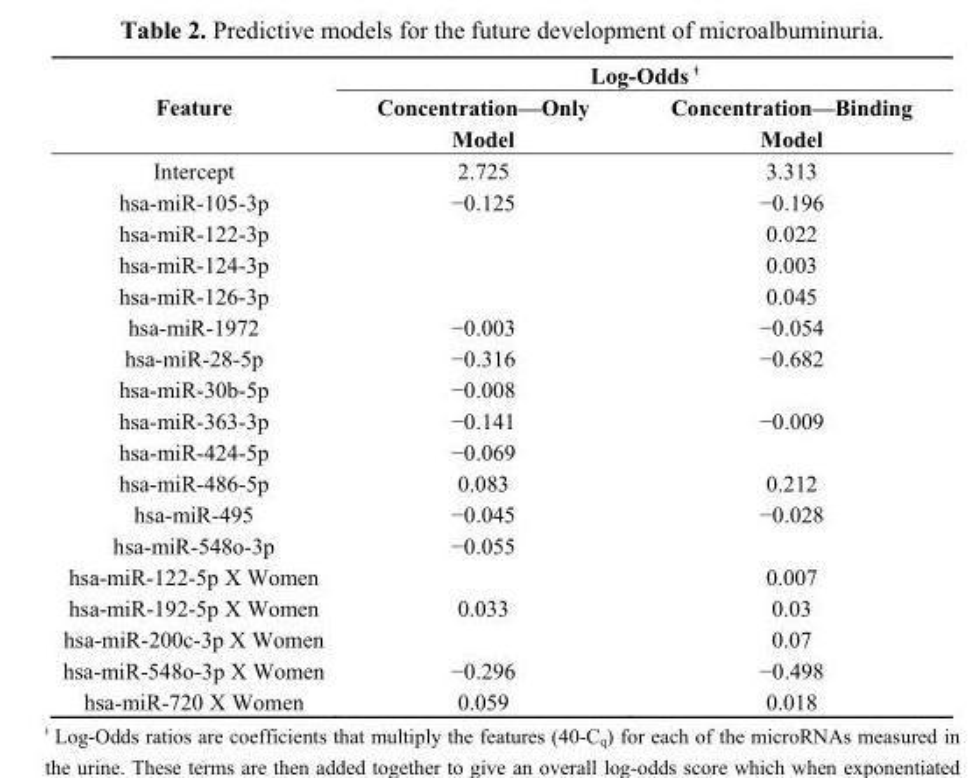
<table><thead><tr><td rowspan="2">Feature</td><td colspan="2">Log-Odds <sup>ǂ</sup></td></tr><tr><td>Concentration—Only Model</td><td>Concentration—Binding Model</td></tr></thead><tbody><tr><td>Intercept</td><td>2.725</td><td>3.313</td></tr><tr><td>hsa-miR-105-3p</td><td>−0.125</td><td>−0.196</td></tr><tr><td>hsa-miR-122-3p</td><td></td><td>0.022</td></tr><tr><td>hsa-miR-124-3p</td><td></td><td>0.003</td></tr><tr><td>hsa-miR-126-3p</td><td></td><td>0.045</td></tr><tr><td>hsa-miR-1972</td><td>−0.003</td><td>−0.054</td></tr><tr><td>hsa-miR-28-5p</td><td>−0.316</td><td>−0.682</td></tr><tr><td>hsa-miR-30b-5p</td><td>−0.008</td><td></td></tr><tr><td>hsa-miR-363-3p</td><td>−0.141</td><td>−0.009</td></tr><tr><td>hsa-miR-424-5p</td><td>−0.069</td><td></td></tr><tr><td>hsa-miR-486-5p</td><td>0.083</td><td>0.212</td></tr><tr><td>hsa-miR-495</td><td>−0.045</td><td>−0.028</td></tr><tr><td>hsa-miR-548o-3p</td><td>−0.055</td><td></td></tr><tr><td>hsa-miR-122-5p X Women</td><td></td><td>0.007</td></tr><tr><td>hsa-miR-192-5p X Women</td><td>0.033</td><td>0.03</td></tr><tr><td>hsa-miR-200c-3p X Women</td><td></td><td>0.07</td></tr><tr><td>hsa-miR-548o-3p X Women</td><td>−0.296</td><td>−0.498</td></tr><tr><td>hsa-miR-720 X Women</td><td>0.059</td><td>0.018</td></tr></tbody></table>